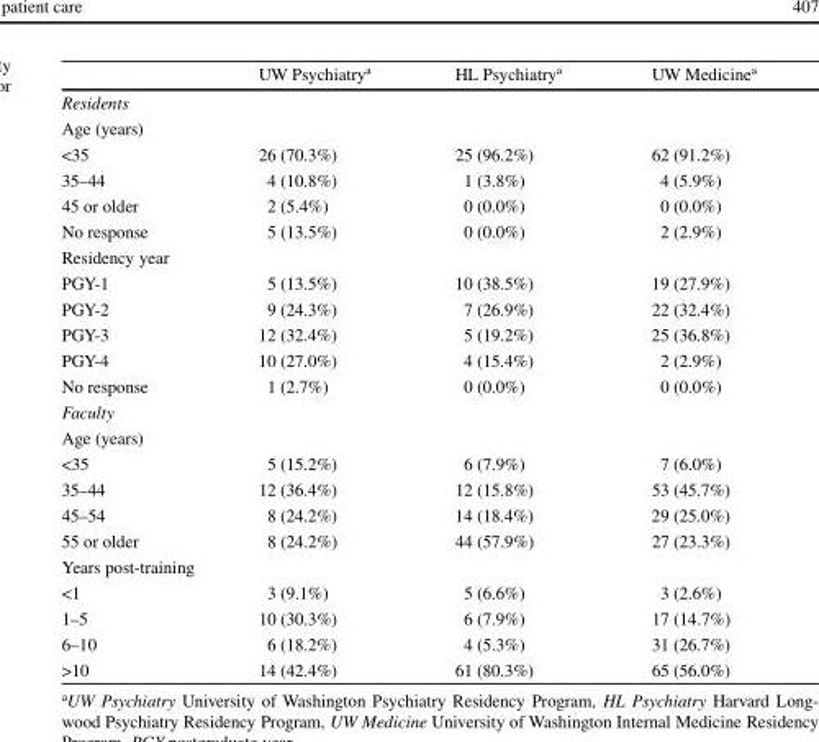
<table><thead><tr><td></td><td>UW Psychiatry<sup>a</sup></td><td>HL Psychiatry<sup>a</sup></td><td>UW Medicine<sup>a</sup></td></tr></thead><tbody><tr><td colspan="4">Residents</td></tr><tr><td colspan="4">Age (years)</td></tr><tr><td>&lt;35</td><td>26 (70.3%)</td><td>25 (96.2%)</td><td>62 (91.2%)</td></tr><tr><td>35–44</td><td>4 (10.8%)</td><td>1 (3.8%)</td><td>4 (5.9%)</td></tr><tr><td>45 or older</td><td>2 (5.4%)</td><td>0 (0.0%)</td><td>0 (0.0%)</td></tr><tr><td>No response</td><td>5 (13.5%)</td><td>0 (0.0%)</td><td>2 (2.9%)</td></tr><tr><td colspan="4">Residency year</td></tr><tr><td>PGY-1</td><td>5 (13.5%)</td><td>10 (38.5%)</td><td>19 (27.9%)</td></tr><tr><td>PGY-2</td><td>9 (24.3%)</td><td>7 (26.9%)</td><td>22 (32.4%)</td></tr><tr><td>PGY-3</td><td>12 (32.4%)</td><td>5 (19.2%)</td><td>25 (36.8%)</td></tr><tr><td>PGY-4</td><td>10 (27.0%)</td><td>4 (15.4%)</td><td>2 (2.9%)</td></tr><tr><td>No response</td><td>1 (2.7%)</td><td>0 (0.0%)</td><td>0 (0.0%)</td></tr><tr><td colspan="4">Faculty</td></tr><tr><td colspan="4">Age (years)</td></tr><tr><td>&lt;35</td><td>5 (15.2%)</td><td>6 (7.9%)</td><td>7 (6.0%)</td></tr><tr><td>35–44</td><td>12 (36.4%)</td><td>12 (15.8%)</td><td>53 (45.7%)</td></tr><tr><td>45–54</td><td>8 (24.2%)</td><td>14 (18.4%)</td><td>29 (25.0%)</td></tr><tr><td>55 or older</td><td>8 (24.2%)</td><td>44 (57.9%)</td><td>27 (23.3%)</td></tr><tr><td colspan="4">Years post-training</td></tr><tr><td>&lt;1</td><td>3 (9.1%)</td><td>5 (6.6%)</td><td>3 (2.6%)</td></tr><tr><td>1–5</td><td>10 (30.3%)</td><td>6 (7.9%)</td><td>17 (14.7%)</td></tr><tr><td>6–10</td><td>6 (18.2%)</td><td>4 (5.3%)</td><td>31 (26.7%)</td></tr><tr><td>&gt;10</td><td>14 (42.4%)</td><td>61 (80.3%)</td><td>65 (56.0%)</td></tr></tbody></table>